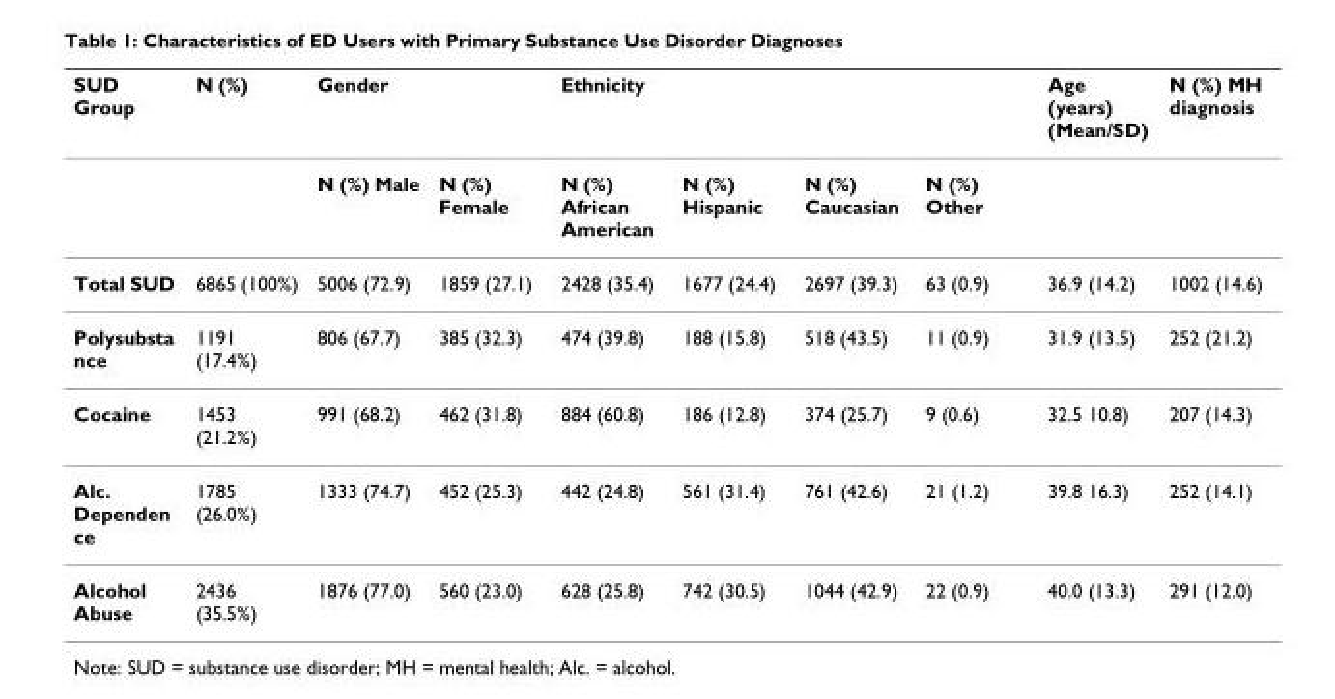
<table><thead><tr><td rowspan="2">SUD Group</td><td rowspan="2">N (%)</td><td colspan="2">Gender</td><td colspan="4">Ethnicity</td><td rowspan="2">Age (years) (Mean/SD)</td><td rowspan="2">N (%) MH diagnosis</td></tr><tr><td>N (%) Male</td><td>N (%) Female</td><td>N (%) African American</td><td>N (%) Hispanic</td><td>N (%) Caucasian</td><td>N (%) Other</td></tr></thead><tbody><tr><td>Total SUD</td><td>6865 (100%)</td><td>5006 (72.9)</td><td>1859 (27.1)</td><td>2428 (35.4)</td><td>1677 (24.4)</td><td>2697 (39.3)</td><td>63 (0.9)</td><td>36.9 (14.2)</td><td>1002 (14.6)</td></tr><tr><td>Polysubsta nce</td><td>1191 (17.4%)</td><td>806 (67.7)</td><td>385 (32.3)</td><td>474 (39.8)</td><td>188 (15.8)</td><td>518 (43.5)</td><td>11 (0.9)</td><td>31.9 (13.5)</td><td>252 (21.2)</td></tr><tr><td>Cocaine</td><td>1453 (21.2%)</td><td>991 (68.2)</td><td>462 (31.8)</td><td>884 (60.8)</td><td>186 (12.8)</td><td>374 (25.7)</td><td>9 (0.6)</td><td>32.5 10.8)</td><td>207 (14.3)</td></tr><tr><td>Alc. Dependen ce</td><td>1785 (26.0%)</td><td>1333 (74.7)</td><td>452 (25.3)</td><td>442 (24.8)</td><td>561 (31.4)</td><td>761 (42.6)</td><td>21 (1.2)</td><td>39.8 16.3)</td><td>252 (14.1)</td></tr><tr><td>Alcohol Abuse</td><td>2436 (35.5%)</td><td>1876 (77.0)</td><td>560 (23.0)</td><td>628 (25.8)</td><td>742 (30.5)</td><td>1044 (42.9)</td><td>22 (0.9)</td><td>40.0 (13.3)</td><td>291 (12.0)</td></tr></tbody></table>